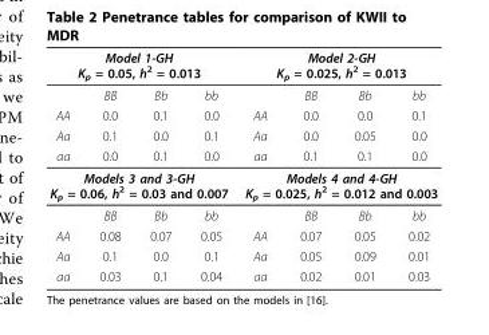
<table><thead><tr><td colspan="4">Model 1-GH K<sub>p</sub> = 0.05, h<sup>2</sup> = 0.013</td><td colspan="4">Model 2-GH K<sub>p</sub> = 0.025, h<sup>2</sup> = 0.013</td></tr><tr><td></td><td>BB</td><td>Bb</td><td>bb</td><td></td><td>BB</td><td>Bb</td><td>bb</td></tr></thead><tbody><tr><td>AA</td><td>0.0</td><td>0.1</td><td>0.0</td><td>AA</td><td>0.0</td><td>0.0</td><td>0.1</td></tr><tr><td>Aa</td><td>0.1</td><td>0.0</td><td>0.1</td><td>Aa</td><td>0.0</td><td>0.05</td><td>0.0</td></tr><tr><td>aa</td><td>0.0</td><td>0.1</td><td>0.0</td><td>aa</td><td>0.1</td><td>0.1</td><td>0.0</td></tr><tr><td colspan="4">Models 3 and 3-GH K<sub>p</sub> = 0.06, h<sup>2</sup> = 0.03 and 0.007</td><td colspan="4">Models 4 and 4-GH K<sub>p</sub> = 0.025, h<sup>2</sup> = 0.012 and 0.003</td></tr><tr><td></td><td>BB</td><td>Bb</td><td>bb</td><td></td><td>BB</td><td>Bb</td><td>bb</td></tr><tr><td>AA</td><td>0.08</td><td>0.07</td><td>0.05</td><td>AA</td><td>0.07</td><td>0.05</td><td>0.02</td></tr><tr><td>Aa</td><td>0.1</td><td>0.0</td><td>0.1</td><td>Aa</td><td>0.05</td><td>0.09</td><td>0.01</td></tr><tr><td>aa</td><td>0.03</td><td>0.1</td><td>0.04</td><td>aa</td><td>0.02</td><td>0.01</td><td>0.03</td></tr></tbody></table>